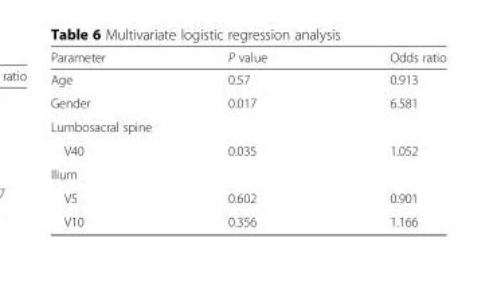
<table><thead><tr><td>Parameter</td><td>P value</td><td>Odds ratio</td></tr></thead><tbody><tr><td>Age</td><td>0.57</td><td>0.913</td></tr><tr><td>Gender</td><td>0.017</td><td>6.581</td></tr><tr><td colspan="3">Lumbosacral spine</td></tr><tr><td>V40</td><td>0.035</td><td>1.052</td></tr><tr><td colspan="3">Ilium</td></tr><tr><td>V5</td><td>0.602</td><td>0.901</td></tr><tr><td>V10</td><td>0.356</td><td>1.166</td></tr></tbody></table>